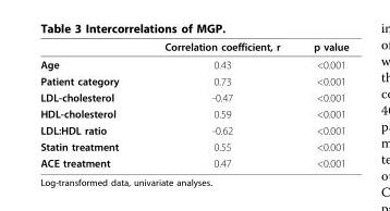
<table><thead><tr><td></td><td>Correlation coefficient, r</td><td>p value</td></tr></thead><tbody><tr><td>Age</td><td>0.43</td><td>&lt;0.001</td></tr><tr><td>Patient category</td><td>0.73</td><td>&lt;0.001</td></tr><tr><td>LDL-cholesterol</td><td>-0.47</td><td>&lt;0.001</td></tr><tr><td>HDL-cholesterol</td><td>0.59</td><td>&lt;0.001</td></tr><tr><td>LDL:HDL ratio</td><td>-0.62</td><td>&lt;0.001</td></tr><tr><td>Statin treatment</td><td>0.55</td><td>&lt;0.001</td></tr><tr><td>ACE treatment</td><td>0.47</td><td>&lt;0.001</td></tr></tbody></table>